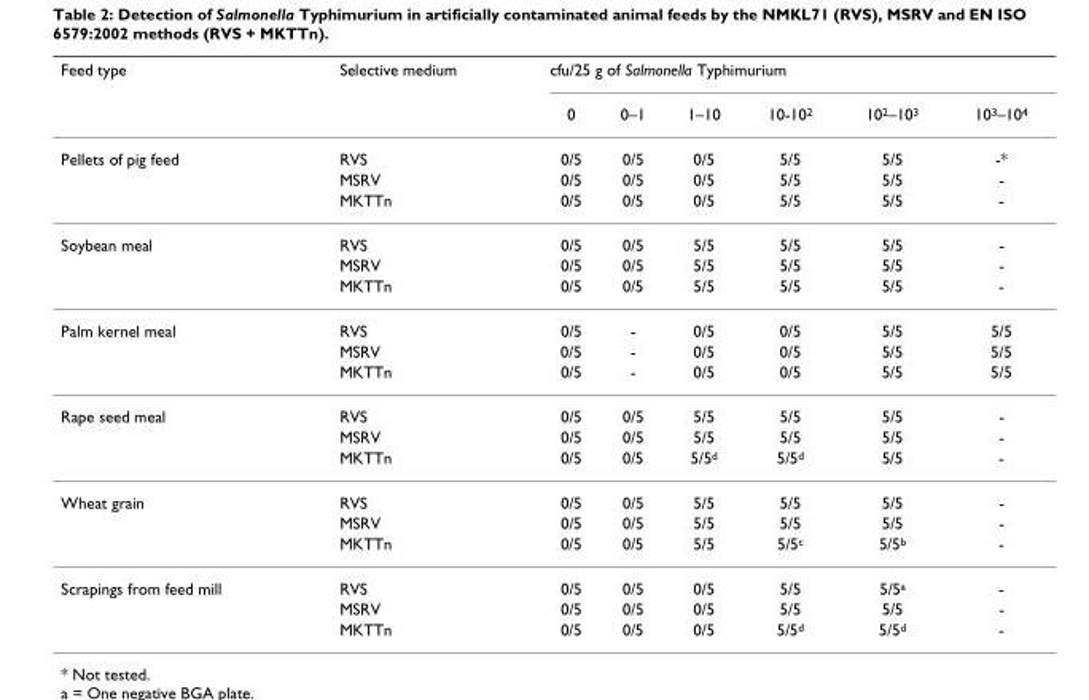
<table><thead><tr><td rowspan="2">Feed type</td><td rowspan="2">Selective medium</td><td colspan="6">cfu/25 g of Salmonella Typhimurium</td></tr><tr><td>0</td><td>0–1</td><td>1–10</td><td>10-10<sup>2</sup></td><td>10<sup>2</sup>–10<sup>3</sup></td><td>10<sup>3</sup>–10<sup>4</sup></td></tr></thead><tbody><tr><td rowspan="3">Pellets of pig feed</td><td>RVS</td><td>0/5</td><td>0/5</td><td>0/5</td><td>5/5</td><td>5/5</td><td>-*</td></tr><tr><td>MSRV</td><td>0/5</td><td>0/5</td><td>0/5</td><td>5/5</td><td>5/5</td><td>-</td></tr><tr><td>MKTTn</td><td>0/5</td><td>0/5</td><td>0/5</td><td>5/5</td><td>5/5</td><td>-</td></tr><tr><td rowspan="3">Soybean meal</td><td>RVS</td><td>0/5</td><td>0/5</td><td>5/5</td><td>5/5</td><td>5/5</td><td>-</td></tr><tr><td>MSRV</td><td>0/5</td><td>0/5</td><td>5/5</td><td>5/5</td><td>5/5</td><td>-</td></tr><tr><td>MKTTn</td><td>0/5</td><td>0/5</td><td>5/5</td><td>5/5</td><td>5/5</td><td>-</td></tr><tr><td rowspan="3">Palm kernel meal</td><td>RVS</td><td>0/5</td><td>-</td><td>0/5</td><td>0/5</td><td>5/5</td><td>5/5</td></tr><tr><td>MSRV</td><td>0/5</td><td>-</td><td>0/5</td><td>0/5</td><td>5/5</td><td>5/5</td></tr><tr><td>MKTTn</td><td>0/5</td><td>-</td><td>0/5</td><td>0/5</td><td>5/5</td><td>5/5</td></tr><tr><td rowspan="3">Rape seed meal</td><td>RVS</td><td>0/5</td><td>0/5</td><td>5/5</td><td>5/5</td><td>5/5</td><td>-</td></tr><tr><td>MSRV</td><td>0/5</td><td>0/5</td><td>5/5</td><td>5/5</td><td>5/5</td><td>-</td></tr><tr><td>MKTTn</td><td>0/5</td><td>0/5</td><td>5/5<sup>d</sup></td><td>5/5<sup>d</sup></td><td>5/5</td><td>-</td></tr><tr><td rowspan="3">Wheat grain</td><td>RVS</td><td>0/5</td><td>0/5</td><td>5/5</td><td>5/5</td><td>5/5</td><td>-</td></tr><tr><td>MSRV</td><td>0/5</td><td>0/5</td><td>5/5</td><td>5/5</td><td>5/5</td><td>-</td></tr><tr><td>MKTTn</td><td>0/5</td><td>0/5</td><td>5/5</td><td>5/5<sup>c</sup></td><td>5/5<sup>b</sup></td><td>-</td></tr><tr><td rowspan="3">Scrapings from feed mill</td><td>RVS</td><td>0/5</td><td>0/5</td><td>0/5</td><td>5/5</td><td>5/5<sup>a</sup></td><td>-</td></tr><tr><td>MSRV</td><td>0/5</td><td>0/5</td><td>0/5</td><td>5/5</td><td>5/5</td><td>-</td></tr><tr><td>MKTTn</td><td>0/5</td><td>0/5</td><td>0/5</td><td>5/5<sup>d</sup></td><td>5/5<sup>d</sup></td><td>-</td></tr></tbody></table>